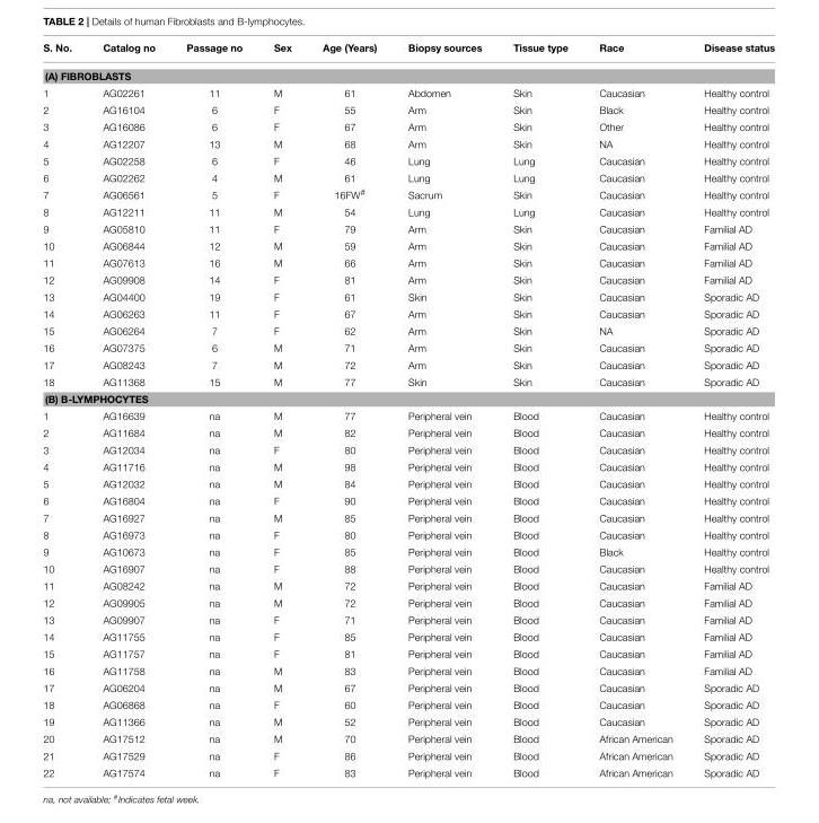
<table><thead><tr><td>S. No.</td><td>Catalog no</td><td>Passage no</td><td>Sex</td><td>Age (Years)</td><td>Biopsy sources</td><td>Tissue type</td><td>Race</td><td>Disease status</td></tr></thead><tbody><tr><td colspan="9">(A) FIBROBLASTS</td></tr><tr><td>1</td><td>AG02261</td><td>11</td><td>M</td><td>61</td><td>Abdomen</td><td>Skin</td><td>Caucasian</td><td>Healthy control</td></tr><tr><td>2</td><td>AG16104</td><td>6</td><td>F</td><td>55</td><td>Arm</td><td>Skin</td><td>Black</td><td>Healthy control</td></tr><tr><td>3</td><td>AG16086</td><td>6</td><td>F</td><td>67</td><td>Arm</td><td>Skin</td><td>Other</td><td>Healthy control</td></tr><tr><td>4</td><td>AG12207</td><td>13</td><td>M</td><td>68</td><td>Arm</td><td>Skin</td><td>NA</td><td>Healthy control</td></tr><tr><td>5</td><td>AG02258</td><td>6</td><td>F</td><td>46</td><td>Lung</td><td>Lung</td><td>Caucasian</td><td>Healthy control</td></tr><tr><td>6</td><td>AG02262</td><td>4</td><td>M</td><td>61</td><td>Lung</td><td>Lung</td><td>Caucasian</td><td>Healthy control</td></tr><tr><td>7</td><td>AG06561</td><td>5</td><td>F</td><td>16FW<sup>#</sup></td><td>Sacrum</td><td>Skin</td><td>Caucasian</td><td>Healthy control</td></tr><tr><td>8</td><td>AG12211</td><td>11</td><td>M</td><td>54</td><td>Lung</td><td>Lung</td><td>Caucasian</td><td>Healthy control</td></tr><tr><td>9</td><td>AG05810</td><td>11</td><td>F</td><td>79</td><td>Arm</td><td>Skin</td><td>Caucasian</td><td>Familial AD</td></tr><tr><td>10</td><td>AG06844</td><td>12</td><td>M</td><td>59</td><td>Arm</td><td>Skin</td><td>Caucasian</td><td>Familial AD</td></tr><tr><td>11</td><td>AG07613</td><td>16</td><td>M</td><td>66</td><td>Arm</td><td>Skin</td><td>Caucasian</td><td>Familial AD</td></tr><tr><td>12</td><td>AG09908</td><td>14</td><td>F</td><td>81</td><td>Arm</td><td>Skin</td><td>Caucasian</td><td>Familial AD</td></tr><tr><td>13</td><td>AG04400</td><td>19</td><td>F</td><td>61</td><td>Skin</td><td>Skin</td><td>Caucasian</td><td>Sporadic AD</td></tr><tr><td>14</td><td>AG06263</td><td>11</td><td>F</td><td>67</td><td>Arm</td><td>Skin</td><td>Caucasian</td><td>Sporadic AD</td></tr><tr><td>15</td><td>AG06264</td><td>7</td><td>F</td><td>62</td><td>Arm</td><td>Skin</td><td>NA</td><td>Sporadic AD</td></tr><tr><td>16</td><td>AG07375</td><td>6</td><td>M</td><td>71</td><td>Arm</td><td>Skin</td><td>Caucasian</td><td>Sporadic AD</td></tr><tr><td>17</td><td>AG08243</td><td>7</td><td>M</td><td>72</td><td>Arm</td><td>Skin</td><td>Caucasian</td><td>Sporadic AD</td></tr><tr><td>18</td><td>AG11368</td><td>15</td><td>M</td><td>77</td><td>Skin</td><td>Skin</td><td>Caucasian</td><td>Sporadic AD</td></tr><tr><td colspan="9">(B) B-LYMPHOCYTES</td></tr><tr><td>1</td><td>AG16639</td><td>na</td><td>M</td><td>77</td><td>Peripheral vein</td><td>Blood</td><td>Caucasian</td><td>Healthy control</td></tr><tr><td>2</td><td>AG11684</td><td>na</td><td>M</td><td>82</td><td>Peripheral vein</td><td>Blood</td><td>Caucasian</td><td>Healthy control</td></tr><tr><td>3</td><td>AG12034</td><td>na</td><td>F</td><td>80</td><td>Peripheral vein</td><td>Blood</td><td>Caucasian</td><td>Healthy control</td></tr><tr><td>4</td><td>AG11716</td><td>na</td><td>M</td><td>98</td><td>Peripheral vein</td><td>Blood</td><td>Caucasian</td><td>Healthy control</td></tr><tr><td>5</td><td>AG12032</td><td>na</td><td>M</td><td>84</td><td>Peripheral vein</td><td>Blood</td><td>Caucasian</td><td>Healthy control</td></tr><tr><td>6</td><td>AG16804</td><td>na</td><td>F</td><td>90</td><td>Peripheral vein</td><td>Blood</td><td>Caucasian</td><td>Healthy control</td></tr><tr><td>7</td><td>AG16927</td><td>na</td><td>M</td><td>85</td><td>Peripheral vein</td><td>Blood</td><td>Caucasian</td><td>Healthy control</td></tr><tr><td>8</td><td>AG16973</td><td>na</td><td>F</td><td>80</td><td>Peripheral vein</td><td>Blood</td><td>Caucasian</td><td>Healthy control</td></tr><tr><td>9</td><td>AG10673</td><td>na</td><td>F</td><td>85</td><td>Peripheral vein</td><td>Blood</td><td>Black</td><td>Healthy control</td></tr><tr><td>10</td><td>AG16907</td><td>na</td><td>F</td><td>88</td><td>Peripheral vein</td><td>Blood</td><td>Caucasian</td><td>Healthy control</td></tr><tr><td>11</td><td>AG08242</td><td>na</td><td>M</td><td>72</td><td>Peripheral vein</td><td>Blood</td><td>Caucasian</td><td>Familial AD</td></tr><tr><td>12</td><td>AG09905</td><td>na</td><td>M</td><td>72</td><td>Peripheral vein</td><td>Blood</td><td>Caucasian</td><td>Familial AD</td></tr><tr><td>13</td><td>AG09907</td><td>na</td><td>F</td><td>71</td><td>Peripheral vein</td><td>Blood</td><td>Caucasian</td><td>Familial AD</td></tr><tr><td>14</td><td>AG11755</td><td>na</td><td>F</td><td>85</td><td>Peripheral vein</td><td>Blood</td><td>Caucasian</td><td>Familial AD</td></tr><tr><td>15</td><td>AG11757</td><td>na</td><td>F</td><td>81</td><td>Peripheral vein</td><td>Blood</td><td>Caucasian</td><td>Familial AD</td></tr><tr><td>16</td><td>AG11758</td><td>na</td><td>M</td><td>83</td><td>Peripheral vein</td><td>Blood</td><td>Caucasian</td><td>Familial AD</td></tr><tr><td>17</td><td>AG06204</td><td>na</td><td>M</td><td>67</td><td>Peripheral vein</td><td>Blood</td><td>Caucasian</td><td>Sporadic AD</td></tr><tr><td>18</td><td>AG06868</td><td>na</td><td>F</td><td>60</td><td>Peripheral vein</td><td>Blood</td><td>Caucasian</td><td>Sporadic AD</td></tr><tr><td>19</td><td>AG11366</td><td>na</td><td>M</td><td>52</td><td>Peripheral vein</td><td>Blood</td><td>Caucasian</td><td>Sporadic AD</td></tr><tr><td>20</td><td>AG17512</td><td>na</td><td>M</td><td>70</td><td>Peripheral vein</td><td>Blood</td><td>African American</td><td>Sporadic AD</td></tr><tr><td>21</td><td>AG17529</td><td>na</td><td>F</td><td>86</td><td>Peripheral vein</td><td>Blood</td><td>African American</td><td>Sporadic AD</td></tr><tr><td>22</td><td>AG17574</td><td>na</td><td>F</td><td>83</td><td>Peripheral vein</td><td>Blood</td><td>African American</td><td>Sporadic AD</td></tr></tbody></table>